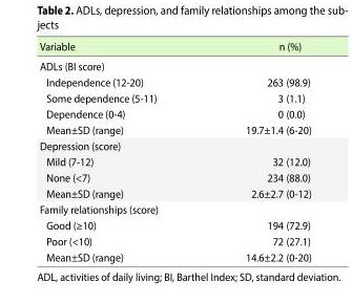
<table><thead><tr><td>Variable</td><td>n (%)</td></tr></thead><tbody><tr><td colspan="2">ADLs (BI score)</td></tr><tr><td>Independence (12-20)</td><td>263 (98.9)</td></tr><tr><td>Some dependence (5-11)</td><td>3 (1.1)</td></tr><tr><td>Dependence (0-4)</td><td>0 (0.0)</td></tr><tr><td>Mean±SD (range)</td><td>19.7±1.4 (6-20)</td></tr><tr><td colspan="2">Depression (score)</td></tr><tr><td>Mild (7-12)</td><td>32 (12.0)</td></tr><tr><td>None (&lt;7)</td><td>234 (88.0)</td></tr><tr><td>Mean±SD (range)</td><td>2.6±2.7 (0-12)</td></tr><tr><td colspan="2">Family relationships (score)</td></tr><tr><td>Good (≥10)</td><td>194 (72.9)</td></tr><tr><td>Poor (&lt;10)</td><td>72 (27.1)</td></tr><tr><td>Mean±SD (range)</td><td>14.6±2.2 (0-20)</td></tr></tbody></table>